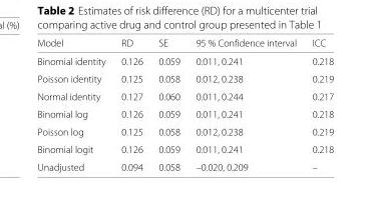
<table><thead><tr><td>Model</td><td>RD</td><td>SE</td><td>95 % Confidence interval</td><td>ICC</td></tr></thead><tbody><tr><td>Binomial identity</td><td>0.126</td><td>0.059</td><td>0.011, 0.241</td><td>0.218</td></tr><tr><td>Poisson identity</td><td>0.125</td><td>0.058</td><td>0.012, 0.238</td><td>0.219</td></tr><tr><td>Normal identity</td><td>0.127</td><td>0.060</td><td>0.011, 0.244</td><td>0.217</td></tr><tr><td>Binomial log</td><td>0.126</td><td>0.059</td><td>0.011, 0.241</td><td>0.218</td></tr><tr><td>Poisson log</td><td>0.125</td><td>0.058</td><td>0.012, 0.238</td><td>0.219</td></tr><tr><td>Binomial logit</td><td>0.126</td><td>0.059</td><td>0.011, 0.241</td><td>0.218</td></tr><tr><td>Unadjusted</td><td>0.094</td><td>0.058</td><td>–0.020, 0.209</td><td>–</td></tr></tbody></table>